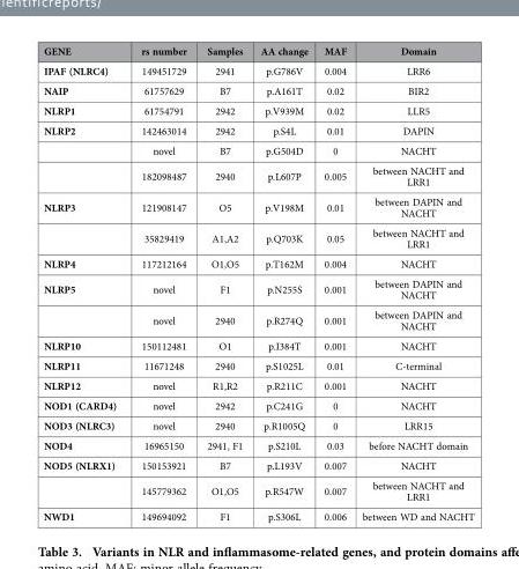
<table><thead><tr><td>GENE</td><td>rs number</td><td>Samples</td><td>AA change</td><td>MAF</td><td>Domain</td></tr></thead><tbody><tr><td>IPAF (NLRC4)</td><td>149451729</td><td>2941</td><td>p.G786V</td><td>0.004</td><td>LRR6</td></tr><tr><td>NAIP</td><td>61757629</td><td>B7</td><td>p.A161T</td><td>0.02</td><td>BIR2</td></tr><tr><td>NLRP1</td><td>61754791</td><td>2942</td><td>p.V939M</td><td>0.02</td><td>LLR5</td></tr><tr><td rowspan="3">NLRP2</td><td>142463014</td><td>2942</td><td>p.S4L</td><td>0.01</td><td>DAPIN</td></tr><tr><td>novel</td><td>B7</td><td>p.G504D</td><td>0</td><td>NACHT</td></tr><tr><td>182098487</td><td>2940</td><td>p.L607P</td><td>0.005</td><td>between NACHT and LRR1</td></tr><tr><td rowspan="2">NLRP3</td><td>121908147</td><td>O5</td><td>p.V198M</td><td>0.01</td><td>between DAPIN and NACHT</td></tr><tr><td>35829419</td><td>A1,A2</td><td>p.Q703K</td><td>0.05</td><td>between NACHT and LRR1</td></tr><tr><td>NLRP4</td><td>117212164</td><td>O1,O5</td><td>p.T162M</td><td>0.004</td><td>NACHT</td></tr><tr><td rowspan="2">NLRP5</td><td>novel</td><td>F1</td><td>p.N255S</td><td>0.001</td><td>between DAPIN and NACHT</td></tr><tr><td>novel</td><td>2940</td><td>p.R274Q</td><td>0.001</td><td>between DAPIN and NACHT</td></tr><tr><td>NLRP10</td><td>150112481</td><td>O1</td><td>p.I384T</td><td>0.001</td><td>NACHT</td></tr><tr><td>NLRP11</td><td>11671248</td><td>2940</td><td>p.S1025L</td><td>0.01</td><td>C-terminal</td></tr><tr><td>NLRP12</td><td>novel</td><td>R1,R2</td><td>p.R211C</td><td>0.001</td><td>NACHT</td></tr><tr><td>NOD1 (CARD4)</td><td>novel</td><td>2942</td><td>p.C241G</td><td>0</td><td>NACHT</td></tr><tr><td>NOD3 (NLRC3)</td><td>novel</td><td>2940</td><td>p.R1005Q</td><td>0</td><td>LRR15</td></tr><tr><td>NOD4</td><td>16965150</td><td>2941, F1</td><td>p.S210L</td><td>0.03</td><td>before NACHT domain</td></tr><tr><td rowspan="2">NOD5 (NLRX1)</td><td>150153921</td><td>B7</td><td>p.L193V</td><td>0.007</td><td>NACHT</td></tr><tr><td>145779362</td><td>O1,O5</td><td>p.R547W</td><td>0.007</td><td>between NACHT and LRR1</td></tr><tr><td>NWD1</td><td>149694092</td><td>F1</td><td>p.S306L</td><td>0.006</td><td>between WD and NACHT</td></tr></tbody></table>